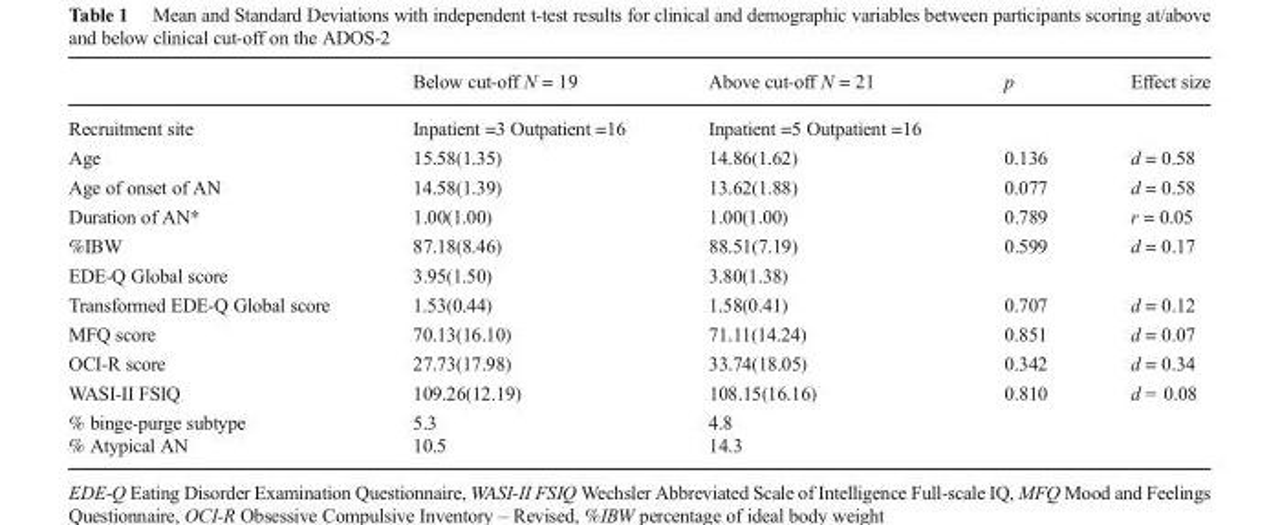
<table><thead><tr><td></td><td>Below cut-off N = 19</td><td>Above cut-off N = 21</td><td>p</td><td>Effect size</td></tr></thead><tbody><tr><td>Recruitment site</td><td>Inpatient =3 Outpatient =16</td><td>Inpatient =5 Outpatient =16</td><td></td><td></td></tr><tr><td>Age</td><td>15.58(1.35)</td><td>14.86(1.62)</td><td>0.136</td><td>d = 0.58</td></tr><tr><td>Age of onset of AN</td><td>14.58(1.39)</td><td>13.62(1.88)</td><td>0.077</td><td>d = 0.58</td></tr><tr><td>Duration of AN*</td><td>1.00(1.00)</td><td>1.00(1.00)</td><td>0.789</td><td>r = 0.05</td></tr><tr><td>%IBW</td><td>87.18(8.46)</td><td>88.51(7.19)</td><td>0.599</td><td>d = 0.17</td></tr><tr><td>EDE-Q Global score</td><td>3.95(1.50)</td><td>3.80(1.38)</td><td></td><td></td></tr><tr><td>Transformed EDE-Q Global score</td><td>1.53(0.44)</td><td>1.58(0.41)</td><td>0.707</td><td>d = 0.12</td></tr><tr><td>MFQ score</td><td>70.13(16.10)</td><td>71.11(14.24)</td><td>0.851</td><td>d = 0.07</td></tr><tr><td>OCI-R score</td><td>27.73(17.98)</td><td>33.74(18.05)</td><td>0.342</td><td>d = 0.34</td></tr><tr><td>WASI-II FSIQ</td><td>109.26(12.19)</td><td>108.15(16.16)</td><td>0.810</td><td>d = 0.08</td></tr><tr><td>% binge-purge subtype % Atypical AN</td><td>5.3 10.5</td><td>4.8 14.3</td><td></td><td></td></tr></tbody></table>